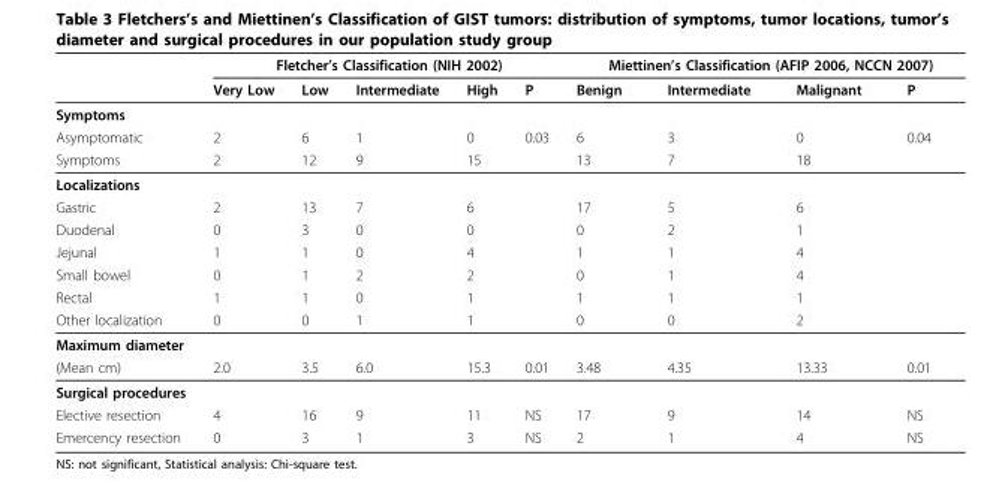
<table><thead><tr><td rowspan="2"></td><td colspan="5">Fletcher’s Classification (NIH 2002)</td><td colspan="4">Miettinen’s Classification (AFIP 2006, NCCN 2007)</td></tr><tr><td>Very Low</td><td>Low</td><td>Intermediate</td><td>High</td><td>P</td><td>Benign</td><td>Intermediate</td><td>Malignant</td><td>P</td></tr></thead><tbody><tr><td colspan="10">Symptoms</td></tr><tr><td>Asymptomatic</td><td>2</td><td>6</td><td>1</td><td>0</td><td>0.03</td><td>6</td><td>3</td><td>0</td><td>0.04</td></tr><tr><td>Symptoms</td><td>2</td><td>12</td><td>9</td><td>15</td><td></td><td>13</td><td>7</td><td>18</td><td></td></tr><tr><td colspan="10">Localizations</td></tr><tr><td>Gastric</td><td>2</td><td>13</td><td>7</td><td>6</td><td></td><td>17</td><td>5</td><td>6</td><td></td></tr><tr><td>Duodenal</td><td>0</td><td>3</td><td>0</td><td>0</td><td></td><td>0</td><td>2</td><td>1</td><td></td></tr><tr><td>Jejunal</td><td>1</td><td>1</td><td>0</td><td>4</td><td></td><td>1</td><td>1</td><td>4</td><td></td></tr><tr><td>Small bowel</td><td>0</td><td>1</td><td>2</td><td>2</td><td></td><td>0</td><td>1</td><td>4</td><td></td></tr><tr><td>Rectal</td><td>1</td><td>1</td><td>0</td><td>1</td><td></td><td>1</td><td>1</td><td>1</td><td></td></tr><tr><td>Other localization</td><td>0</td><td>0</td><td>1</td><td>1</td><td></td><td>0</td><td>0</td><td>2</td><td></td></tr><tr><td colspan="10">Maximum diameter</td></tr><tr><td>(Mean cm)</td><td>2.0</td><td>3.5</td><td>6.0</td><td>15.3</td><td>0.01</td><td>3.48</td><td>4.35</td><td>13.33</td><td>0.01</td></tr><tr><td colspan="10">Surgical procedures</td></tr><tr><td>Elective resection</td><td>4</td><td>16</td><td>9</td><td>11</td><td>NS</td><td>17</td><td>9</td><td>14</td><td>NS</td></tr><tr><td>Emercency resection</td><td>0</td><td>3</td><td>1</td><td>3</td><td>NS</td><td>2</td><td>1</td><td>4</td><td>NS</td></tr></tbody></table>